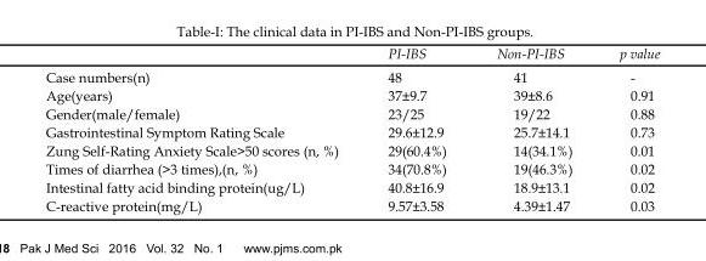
<table><thead><tr><td></td><td>PI-IBS</td><td>Non-PI-IBS</td><td>p value</td></tr></thead><tbody><tr><td>Case numbers(n)</td><td>48</td><td>41</td><td>-</td></tr><tr><td>Age(years)</td><td>37±9.7</td><td>39±8.6</td><td>0.91</td></tr><tr><td>Gender(male/female)</td><td>23/25</td><td>19/22</td><td>0.88</td></tr><tr><td>Gastrointestinal Symptom Rating Scale</td><td>29.6±12.9</td><td>25.7±14.1</td><td>0.73</td></tr><tr><td>Zung Self-Rating Anxiety Scale&gt;50 scores (n, %)</td><td>29(60.4%)</td><td>14(34.1%)</td><td>0.01</td></tr><tr><td>Times of diarrhea (&gt;3 times),(n, %)</td><td>34(70.8%)</td><td>19(46.3%)</td><td>0.02</td></tr><tr><td>Intestinal fatty acid binding protein(ug/L)</td><td>40.8±16.9</td><td>18.9±13.1</td><td>0.02</td></tr><tr><td>C-reactive protein(mg/L)</td><td>9.57±3.58</td><td>4.39±1.47</td><td>0.03</td></tr></tbody></table>